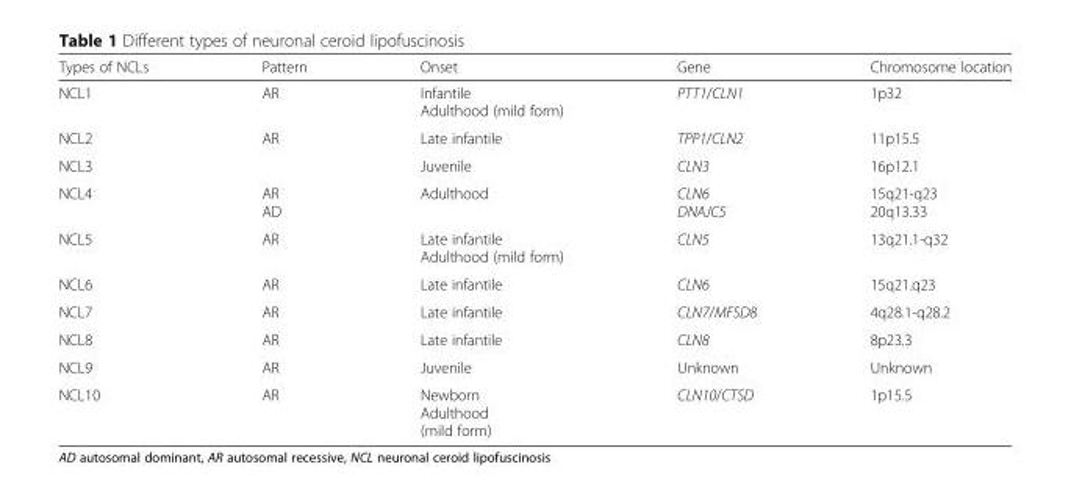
<table><thead><tr><td>Types of NCLs</td><td>Pattern</td><td>Onset</td><td>Gene</td><td>Chromosome location</td></tr></thead><tbody><tr><td>NCL1</td><td>AR</td><td>Infantile Adulthood (mild form)</td><td>PTT1/CLN1</td><td>1p32</td></tr><tr><td>NCL2</td><td>AR</td><td>Late infantile</td><td>TPP1/CLN2</td><td>11p15.5</td></tr><tr><td>NCL3</td><td></td><td>Juvenile</td><td>CLN3</td><td>16p12.1</td></tr><tr><td>NCL4</td><td>AR AD</td><td>Adulthood</td><td>CLN6 DNAJC5</td><td>15q21-q23 20q13.33</td></tr><tr><td>NCL5</td><td>AR</td><td>Late infantile Adulthood (mild form)</td><td>CLN5</td><td>13q21.1-q32</td></tr><tr><td>NCL6</td><td>AR</td><td>Late infantile</td><td>CLN6</td><td>15q21.q23</td></tr><tr><td>NCL7</td><td>AR</td><td>Late infantile</td><td>CLN7/MFSD8</td><td>4q28.1-q28.2</td></tr><tr><td>NCL8</td><td>AR</td><td>Late infantile</td><td>CLN8</td><td>8p23.3</td></tr><tr><td>NCL9</td><td>AR</td><td>Juvenile</td><td>Unknown</td><td>Unknown</td></tr><tr><td>NCL10</td><td>AR</td><td>Newborn Adulthood (mild form)</td><td>CLN10/CTSD</td><td>1p15.5</td></tr></tbody></table>